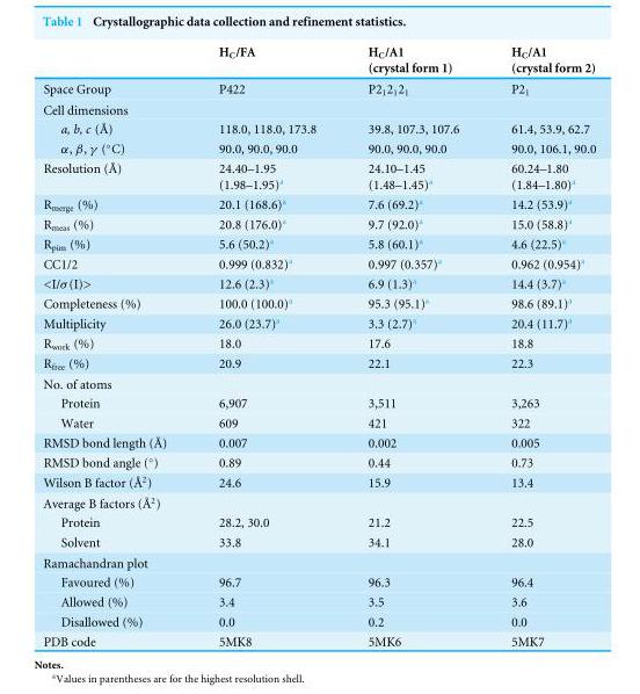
<table><thead><tr><td></td><td>H<sub>C</sub>/FA</td><td>H<sub>C</sub>/A1 (crystal form 1)</td><td>H<sub>C</sub>/A1 (crystal form 2)</td></tr></thead><tbody><tr><td>Space Group</td><td>P422</td><td>P2<sub>1</sub>2<sub>1</sub>2<sub>1</sub></td><td>P2<sub>1</sub></td></tr><tr><td colspan="4">Cell dimensions</td></tr><tr><td>a, b, c (Å)</td><td>118.0, 118.0, 173.8</td><td>39.8, 107.3, 107.6</td><td>61.4, 53.9, 62.7</td></tr><tr><td>α, β, γ (◦C)</td><td>90.0, 90.0, 90.0</td><td>90.0, 90.0, 90.0</td><td>90.0, 106.1, 90.0</td></tr><tr><td>Resolution (Å)</td><td>24.40–1.95 (1.98–1.95)<sup>a</sup></td><td>24.10–1.45 (1.48–1.45)<sup>a</sup></td><td>60.24–1.80 (1.84–1.80)<sup>a</sup></td></tr><tr><td>R<sub>merge</sub> (%)</td><td>20.1 (168.6)<sup>a</sup></td><td>7.6 (69.2)<sup>a</sup></td><td>14.2 (53.9)<sup>a</sup></td></tr><tr><td>R<sub>meas</sub> (%)</td><td>20.8 (176.0)<sup>a</sup></td><td>9.7 (92.0)<sup>a</sup></td><td>15.0 (58.8)<sup>a</sup></td></tr><tr><td>R<sub>pim</sub> (%)</td><td>5.6 (50.2)<sup>a</sup></td><td>5.8 (60.1)<sup>a</sup></td><td>4.6 (22.5)<sup>a</sup></td></tr><tr><td>CC1/2</td><td>0.999 (0.832)<sup>a</sup></td><td>0.997 (0.357)<sup>a</sup></td><td>0.962 (0.954)<sup>a</sup></td></tr><tr><td>&lt;I/σ(I)&gt;</td><td>12.6 (2.3)<sup>a</sup></td><td>6.9 (1.3)<sup>a</sup></td><td>14.4 (3.7)<sup>a</sup></td></tr><tr><td>Completeness (%)</td><td>100.0 (100.0)<sup>a</sup></td><td>95.3 (95.1)<sup>a</sup></td><td>98.6 (89.1)<sup>a</sup></td></tr><tr><td>Multiplicity</td><td>26.0 (23.7)<sup>a</sup></td><td>3.3 (2.7)<sup>a</sup></td><td>20.4 (11.7)<sup>a</sup></td></tr><tr><td>R<sub>work</sub> (%)</td><td>18.0</td><td>17.6</td><td>18.8</td></tr><tr><td>R<sub>free</sub> (%)</td><td>20.9</td><td>22.1</td><td>22.3</td></tr><tr><td colspan="4">No. of atoms</td></tr><tr><td>Protein</td><td>6,907</td><td>3,511</td><td>3,263</td></tr><tr><td>Water</td><td>609</td><td>421</td><td>322</td></tr><tr><td>RMSD bond length (Å)</td><td>0.007</td><td>0.002</td><td>0.005</td></tr><tr><td>RMSD bond angle (◦)</td><td>0.89</td><td>0.44</td><td>0.73</td></tr><tr><td>Wilson B factor (Å<sup>2</sup>)</td><td>24.6</td><td>15.9</td><td>13.4</td></tr><tr><td colspan="4">Average B factors (Å<sup>2</sup>)</td></tr><tr><td>Protein</td><td>28.2, 30.0</td><td>21.2</td><td>22.5</td></tr><tr><td>Solvent</td><td>33.8</td><td>34.1</td><td>28.0</td></tr><tr><td colspan="4">Ramachandran plot</td></tr><tr><td>Favoured (%)</td><td>96.7</td><td>96.3</td><td>96.4</td></tr><tr><td>Allowed (%)</td><td>3.4</td><td>3.5</td><td>3.6</td></tr><tr><td>Disallowed (%)</td><td>0.0</td><td>0.2</td><td>0.0</td></tr><tr><td>PDB code</td><td>5MK8</td><td>5MK6</td><td>5MK7</td></tr></tbody></table>